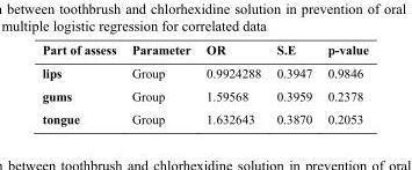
<table><thead><tr><td>Part of assess</td><td>Parameter</td><td>OR</td><td>S.E</td><td>p-value</td></tr></thead><tbody><tr><td>lips</td><td>Group</td><td>0.9924288</td><td>0.3947</td><td>0.9846</td></tr><tr><td>gums</td><td>Group</td><td>1.59568</td><td>0.3959</td><td>0.2378</td></tr><tr><td>tongue</td><td>Group</td><td>1.632643</td><td>0.3870</td><td>0.2053</td></tr></tbody></table>